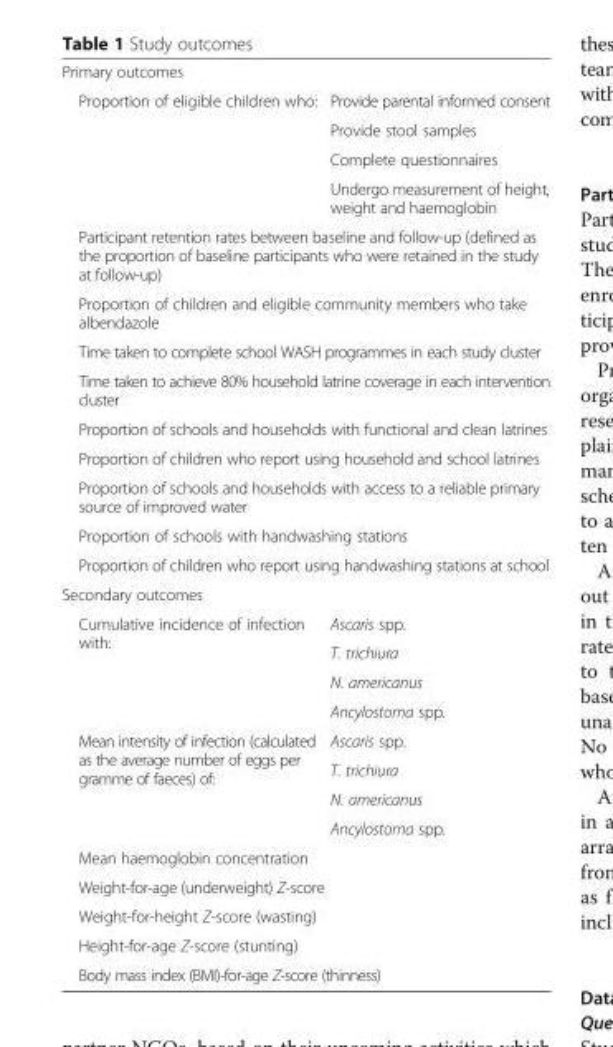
<table><tbody><tr><td colspan="2">Primary outcomes</td></tr><tr><td rowspan="4">Proportion of eligible children who:</td><td>Provide parental informed consent</td></tr><tr><td>Provide stool samples</td></tr><tr><td>Complete questionnaires</td></tr><tr><td>Undergo measurement of height, weight and haemoglobin</td></tr><tr><td colspan="2">Participant retention rates between baseline and follow-up (defined as the proportion of baseline participants who were retained in the study at follow-up)</td></tr><tr><td colspan="2">Proportion of children and eligible community members who take albendazole</td></tr><tr><td colspan="2">Time taken to complete school WASH programmes in each study cluster</td></tr><tr><td colspan="2">Time taken to achieve 80% household latrine coverage in each intervention cluster</td></tr><tr><td colspan="2">Proportion of schools and households with functional and clean latrines</td></tr><tr><td colspan="2">Proportion of children who report using household and school latrines</td></tr><tr><td colspan="2">Proportion of schools and households with access to a reliable primary source of improved water</td></tr><tr><td colspan="2">Proportion of schools with handwashing stations</td></tr><tr><td colspan="2">Proportion of children who report using handwashing stations at school</td></tr><tr><td colspan="2">Secondary outcomes</td></tr><tr><td rowspan="4">Cumulative incidence of infection with:</td><td>Ascaris spp.</td></tr><tr><td>T. trichiura</td></tr><tr><td>N. americanus</td></tr><tr><td>Ancylostoma spp.</td></tr><tr><td rowspan="4">Mean intensity of infection (calculated as the average number of eggs per gramme of faeces) of:</td><td>Ascaris spp.</td></tr><tr><td>T. trichiura</td></tr><tr><td>N. americanus</td></tr><tr><td>Ancylostoma spp.</td></tr><tr><td colspan="2">Mean haemoglobin concentration</td></tr><tr><td colspan="2">Weight-for-age (underweight) Z-score</td></tr><tr><td colspan="2">Weight-for-height Z-score (wasting)</td></tr><tr><td colspan="2">Height-for-age Z-score (stunting)</td></tr><tr><td colspan="2">Body mass index (BMI)-for-age Z-score (thinness)</td></tr></tbody></table>